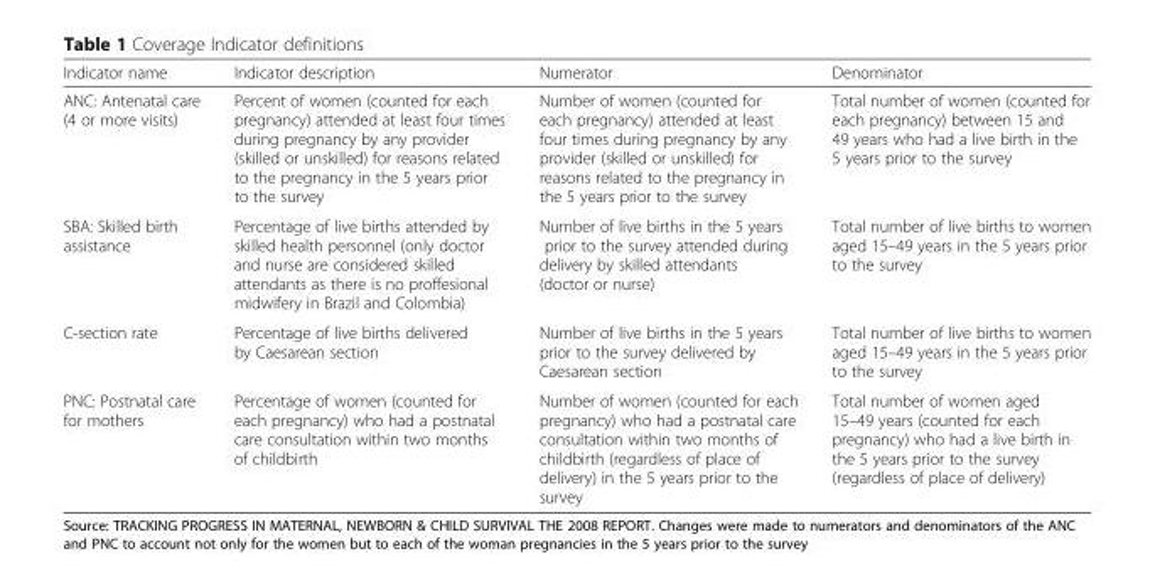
<table><thead><tr><td>Indicator name</td><td>Indicator description</td><td>Numerator</td><td>Denominator</td></tr></thead><tbody><tr><td>ANC: Antenatal care (4 or more visits)</td><td>Percent of women (counted for each pregnancy) attended at least four times during pregnancy by any provider (skilled or unskilled) for reasons related to the pregnancy in the 5 years prior to the survey</td><td>Number of women (counted for each pregnancy) attended at least four times during pregnancy by any provider (skilled or unskilled) for reasons related to the pregnancy in the 5 years prior to the survey</td><td>Total number of women (counted for each pregnancy) between 15 and 49 years who had a live birth in the 5 years prior to the survey</td></tr><tr><td>SBA: Skilled birth assistance</td><td>Percentage of live births attended by skilled health personnel (only doctor and nurse are considered skilled attendants as there is no proffesional midwifery in Brazil and Colombia)</td><td>Number of live births in the 5 years prior to the survey attended during delivery by skilled attendants (doctor or nurse)</td><td>Total number of live births to women aged 15–49 years in the 5 years prior to the survey</td></tr><tr><td>C-section rate</td><td>Percentage of live births delivered by Caesarean section</td><td>Number of live births in the 5 years prior to the survey delivered by Caesarean section</td><td>Total number of live births to women aged 15–49 years in the 5 years prior to the survey</td></tr><tr><td>PNC: Postnatal care for mothers</td><td>Percentage of women (counted for each pregnancy) who had a postnatal care consultation within two months of childbirth</td><td>Number of women (counted for each pregnancy) who had a postnatal care consultation within two months of childbirth (regardless of place of delivery) in the 5 years prior to the survey</td><td>Total number of women aged 15–49 years (counted for each pregnancy) who had a live birth in the 5 years prior to the survey (regardless of place of delivery)</td></tr></tbody></table>